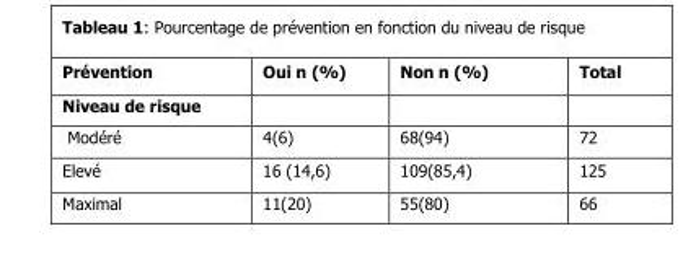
<table><thead><tr><td>Prévention</td><td>Oui n (%)</td><td>Non n (%)</td><td>Total</td></tr></thead><tbody><tr><td colspan="4">Niveau de risque</td></tr><tr><td>Modéré</td><td>4(6)</td><td>68(94)</td><td>72</td></tr><tr><td>Elevé</td><td>16 (14,6)</td><td>109(85,4)</td><td>125</td></tr><tr><td>Maximal</td><td>11(20)</td><td>55(80)</td><td>66</td></tr></tbody></table>